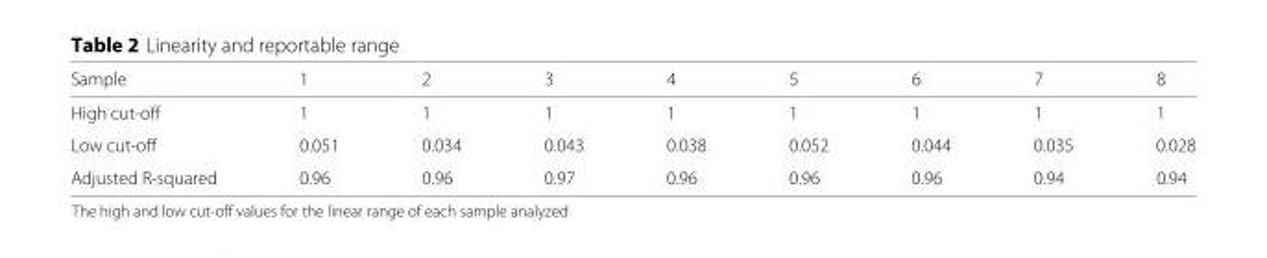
<table><thead><tr><td>Sample</td><td>1</td><td>2</td><td>3</td><td>4</td><td>5</td><td>6</td><td>7</td><td>8</td></tr></thead><tbody><tr><td>High cut-off</td><td>1</td><td>1</td><td>1</td><td>1</td><td>1</td><td>1</td><td>1</td><td>1</td></tr><tr><td>Low cut-off</td><td>0.051</td><td>0.034</td><td>0.043</td><td>0.038</td><td>0.052</td><td>0.044</td><td>0.035</td><td>0.028</td></tr><tr><td>Adjusted R-squared</td><td>0.96</td><td>0.96</td><td>0.97</td><td>0.96</td><td>0.96</td><td>0.96</td><td>0.94</td><td>0.94</td></tr></tbody></table>